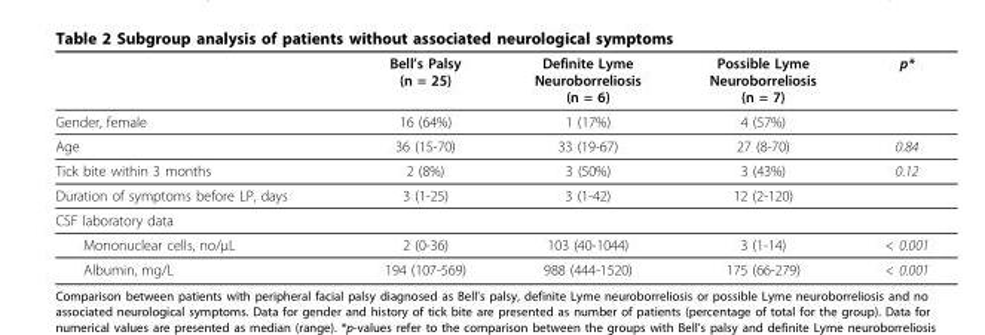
<table><thead><tr><td></td><td>Bell’s Palsy (n = 25)</td><td>Definite Lyme Neuroborreliosis (n = 6)</td><td>Possible Lyme Neuroborreliosis (n = 7)</td><td>p*</td></tr></thead><tbody><tr><td>Gender, female</td><td>16 (64%)</td><td>1 (17%)</td><td>4 (57%)</td><td></td></tr><tr><td>Age</td><td>36 (15-70)</td><td>33 (19-67)</td><td>27 (8-70)</td><td>0.84</td></tr><tr><td>Tick bite within 3 months</td><td>2 (8%)</td><td>3 (50%)</td><td>3 (43%)</td><td>0.12</td></tr><tr><td>Duration of symptoms before LP, days</td><td>3 (1-25)</td><td>3 (1-42)</td><td>12 (2-120)</td><td></td></tr><tr><td colspan="5">CSF laboratory data</td></tr><tr><td>Mononuclear cells, no/μL</td><td>2 (0-36)</td><td>103 (40-1044)</td><td>3 (1-14)</td><td>&lt; 0.001</td></tr><tr><td>Albumin, mg/L</td><td>194 (107-569)</td><td>988 (444-1520)</td><td>175 (66-279)</td><td>&lt; 0.001</td></tr></tbody></table>